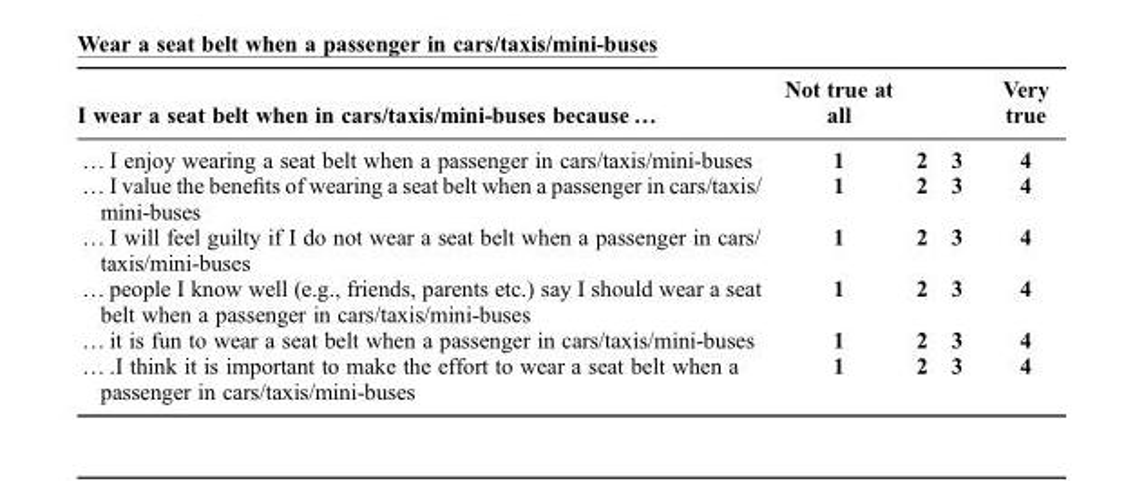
<table><thead><tr><td>I wear a seat belt when in cars/taxis/mini-buses because …</td><td>Not true at all</td><td></td><td></td><td>Very true</td></tr></thead><tbody><tr><td>… I enjoy wearing a seat belt when a passenger in cars/taxis/mini-buses</td><td>1</td><td>2</td><td>3</td><td>4</td></tr><tr><td>… I value the benefits of wearing a seat belt when a passenger in cars/taxis/ mini-buses</td><td>1</td><td>2</td><td>3</td><td>4</td></tr><tr><td>… I will feel guilty if I do not wear a seat belt when a passenger in cars/ taxis/mini-buses</td><td>1</td><td>2</td><td>3</td><td>4</td></tr><tr><td>… people I know well (e.g., friends, parents etc.) say I should wear a seat belt when a passenger in cars/taxis/mini-buses</td><td>1</td><td>2</td><td>3</td><td>4</td></tr><tr><td>… it is fun to wear a seat belt when a passenger in cars/taxis/mini-buses</td><td>1</td><td>2</td><td>3</td><td>4</td></tr><tr><td>… .I think it is important to make the effort to wear a seat belt when a passenger in cars/taxis/mini-buses</td><td>1</td><td>2</td><td>3</td><td>4</td></tr></tbody></table>